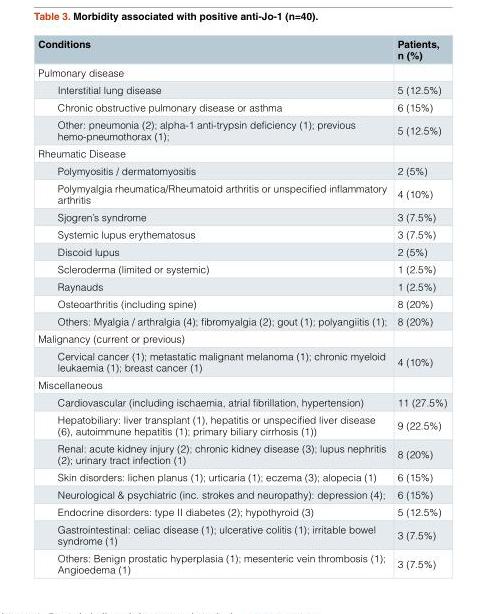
<table><thead><tr><td>Conditions</td><td>Patients, n (%)</td></tr></thead><tbody><tr><td colspan="2">Pulmonary disease</td></tr><tr><td>Interstitial lung disease</td><td>5 (12.5%)</td></tr><tr><td>Chronic obstructive pulmonary disease or asthma</td><td>6 (15%)</td></tr><tr><td>Other: pneumonia (2); alpha-1 anti-trypsin deficiency (1); previous hemo-pneumothorax (1);</td><td>5 (12.5%)</td></tr><tr><td colspan="2">Rheumatic Disease</td></tr><tr><td>Polymyositis / dermatomyositis</td><td>2 (5%)</td></tr><tr><td>Polymyalgia rheumatica/Rheumatoid arthritis or unspecified inflammatory arthritis</td><td>4 (10%)</td></tr><tr><td>Sjogren’s syndrome</td><td>3 (7.5%)</td></tr><tr><td>Systemic lupus erythematosus</td><td>3 (7.5%)</td></tr><tr><td>Discoid lupus</td><td>2 (5%)</td></tr><tr><td>Scleroderma (limited or systemic)</td><td>1 (2.5%)</td></tr><tr><td>Raynauds</td><td>1 (2.5%)</td></tr><tr><td>Osteoarthritis (including spine)</td><td>8 (20%)</td></tr><tr><td>Others: Myalgia / arthralgia (4); fibromyalgia (2); gout (1); polyangiitis (1);</td><td>8 (20%)</td></tr><tr><td colspan="2">Malignancy (current or previous)</td></tr><tr><td>Cervical cancer (1); metastatic malignant melanoma (1); chronic myeloid leukaemia (1); breast cancer (1)</td><td>4 (10%)</td></tr><tr><td colspan="2">Miscellaneous</td></tr><tr><td>Cardiovascular (including ischaemia, atrial fibrillation, hypertension)</td><td>11 (27.5%)</td></tr><tr><td>Hepatobiliary: liver transplant (1), hepatitis or unspecified liver disease (6), autoimmune hepatitis (1); primary biliary cirrhosis (1))</td><td>9 (22.5%)</td></tr><tr><td>Renal: acute kidney injury (2); chronic kidney disease (3); lupus nephritis (2); urinary tract infection (1)</td><td>8 (20%)</td></tr><tr><td>Skin disorders: lichen planus (1); urticaria (1); eczema (3); alopecia (1)</td><td>6 (15%)</td></tr><tr><td>Neurological &amp; psychiatric (inc. strokes and neuropathy): depression (4);</td><td>6 (15%)</td></tr><tr><td>Endocrine disorders: type II diabetes (2); hypothyroid (3)</td><td>5 (12.5%)</td></tr><tr><td>Gastrointestinal: celiac disease (1); ulcerative colitis (1); irritable bowel syndrome (1)</td><td>3 (7.5%)</td></tr><tr><td>Others: Benign prostatic hyperplasia (1); mesenteric vein thrombosis (1); Angioedema (1)</td><td>3 (7.5%)</td></tr></tbody></table>